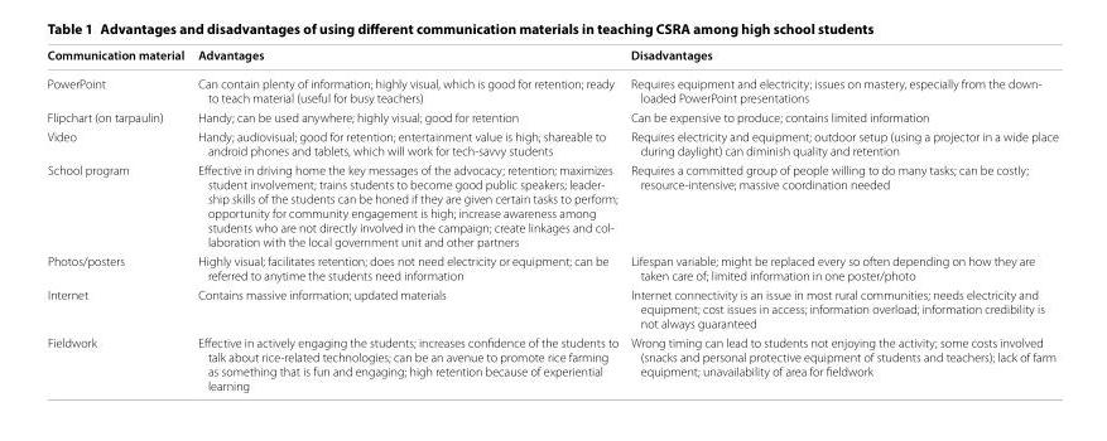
<table><thead><tr><td>Communication material</td><td>Advantages</td><td>Disadvantages</td></tr></thead><tbody><tr><td>PowerPoint</td><td>Can contain plenty of information; highly visual, which is good for retention; ready to teach material (useful for busy teachers)</td><td>Requires equipment and electricity; issues on mastery, especially from the down- loaded PowerPoint presentations</td></tr><tr><td>Flipchart (on tarpaulin)</td><td>Handy; can be used anywhere; highly visual; good for retention</td><td>Can be expensive to produce; contains limited information</td></tr><tr><td>Video</td><td>Handy; audiovisual; good for retention; entertainment value is high; shareable to android phones and tablets, which will work for tech-savvy students</td><td>Requires electricity and equipment; outdoor setup (using a projector in a wide place during daylight) can diminish quality and retention</td></tr><tr><td>School program</td><td>Effective in driving home the key messages of the advocacy; retention; maximizes student involvement; trains students to become good public speakers; leader- ship skills of the students can be honed if they are given certain tasks to perform; opportunity for community engagement is high; increase awareness among students who are not directly involved in the campaign; create linkages and col- laboration with the local government unit and other partners</td><td>Requires a committed group of people willing to do many tasks; can be costly; resource-intensive; massive coordination needed</td></tr><tr><td>Photos/posters</td><td>Highly visual; facilitates retention; does not need electricity or equipment; can be referred to anytime the students need information</td><td>Lifespan variable; might be replaced every so often depending on how they are taken care of; limited information in one poster/photo</td></tr><tr><td>Internet</td><td>Contains massive information; updated materials</td><td>Internet connectivity is an issue in most rural communities; needs electricity and equipment; cost issues in access; information overload; information credibility is not always guaranteed</td></tr><tr><td>Fieldwork</td><td>Effective in actively engaging the students; increases confidence of the students to talk about rice-related technologies; can be an avenue to promote rice farming as something that is fun and engaging; high retention because of experiential learning</td><td>Wrong timing can lead to students not enjoying the activity; some costs involved (snacks and personal protective equipment of students and teachers); lack of farm equipment; unavailability of area for fieldwork</td></tr></tbody></table>